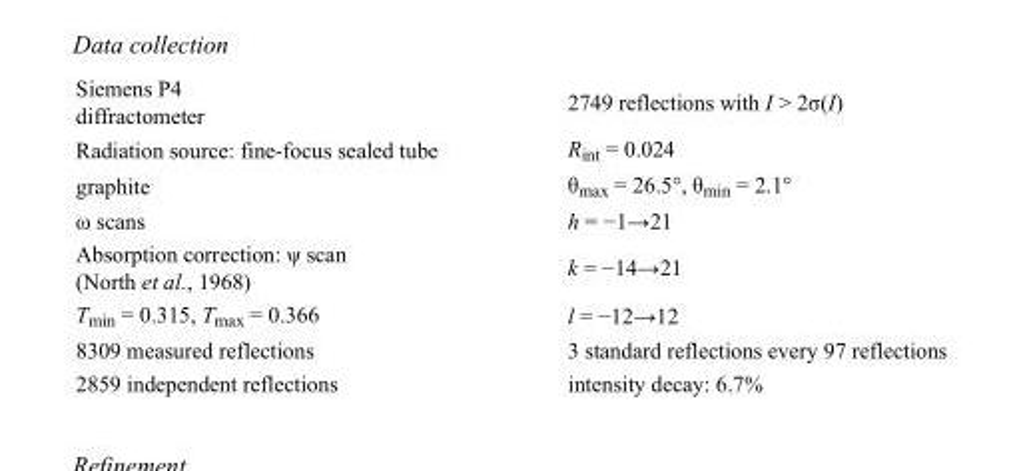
<table><tbody><tr><td>Siemens P4 diffractometer</td><td>2749 reflections with I &gt; 2σ(I)</td></tr><tr><td>Radiation source: fine-focus sealed tube</td><td>R<sub>int</sub> = 0.024</td></tr><tr><td>graphite</td><td>θ<sub>max</sub> = 26.5°, θ<sub>min</sub> = 2.1°</td></tr><tr><td>ω scans</td><td>h = −1→21</td></tr><tr><td>Absorption correction: ψ scan (North et al., 1968)</td><td>k = −14→21</td></tr><tr><td>T<sub>min</sub> = 0.315, T<sub>max</sub> = 0.366</td><td>l = −12→12</td></tr><tr><td>8309 measured reflections</td><td>3 standard reflections every 97 reflections</td></tr><tr><td>2859 independent reflections</td><td>intensity decay: 6.7%</td></tr></tbody></table>